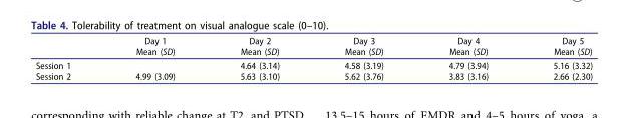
<table><thead><tr><td></td><td>Day 1 Mean (SD)</td><td>Day 2 Mean (SD)</td><td>Day 3 Mean (SD)</td><td>Day 4 Mean (SD)</td><td>Day 5 Mean (SD)</td></tr></thead><tbody><tr><td>Session 1</td><td></td><td>4.64 (3.14)</td><td>4.58 (3.19)</td><td>4.79 (3.94)</td><td>5.16 (3.32)</td></tr><tr><td>Session 2</td><td>4.99 (3.09)</td><td>5.63 (3.10)</td><td>5.62 (3.76)</td><td>3.83 (3.16)</td><td>2.66 (2.30)</td></tr></tbody></table>